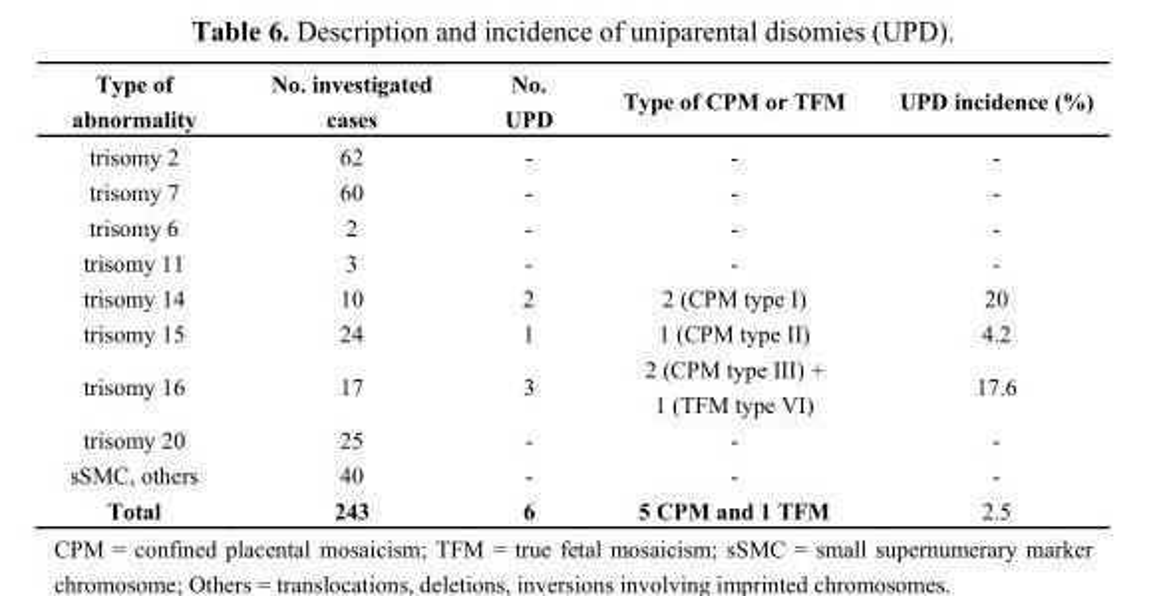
<table><thead><tr><td>Type of abnormality</td><td>No. investigated cases</td><td>No. UPD</td><td>Type of CPM or TFM</td><td>UPD incidence (%)</td></tr></thead><tbody><tr><td>trisomy 2</td><td>62</td><td>-</td><td>-</td><td>-</td></tr><tr><td>trisomy 7</td><td>60</td><td>-</td><td>-</td><td>-</td></tr><tr><td>trisomy 6</td><td>2</td><td>-</td><td>-</td><td>-</td></tr><tr><td>trisomy 11</td><td>3</td><td>-</td><td>-</td><td>-</td></tr><tr><td>trisomy 14</td><td>10</td><td>2</td><td>2 (CPM type I)</td><td>20</td></tr><tr><td>trisomy 15</td><td>24</td><td>1</td><td>1 (CPM type II)</td><td>4.2</td></tr><tr><td>trisomy 16</td><td>17</td><td>3</td><td>2 (CPM type III) + 1 (TFM type VI)</td><td>17.6</td></tr><tr><td>trisomy 20</td><td>25</td><td>-</td><td>-</td><td>-</td></tr><tr><td>sSMC, others</td><td>40</td><td>-</td><td>-</td><td>-</td></tr><tr><td>Total</td><td>243</td><td>6</td><td>5 CPM and 1 TFM</td><td>2.5</td></tr></tbody></table>